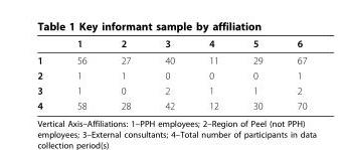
<table><thead><tr><td></td><td>1</td><td>2</td><td>3</td><td>4</td><td>5</td><td>6</td></tr></thead><tbody><tr><td>1</td><td>56</td><td>27</td><td>40</td><td>11</td><td>29</td><td>67</td></tr><tr><td>2</td><td>1</td><td>1</td><td>0</td><td>0</td><td>0</td><td>1</td></tr><tr><td>3</td><td>1</td><td>0</td><td>2</td><td>1</td><td>1</td><td>2</td></tr><tr><td>4</td><td>58</td><td>28</td><td>42</td><td>12</td><td>30</td><td>70</td></tr></tbody></table>